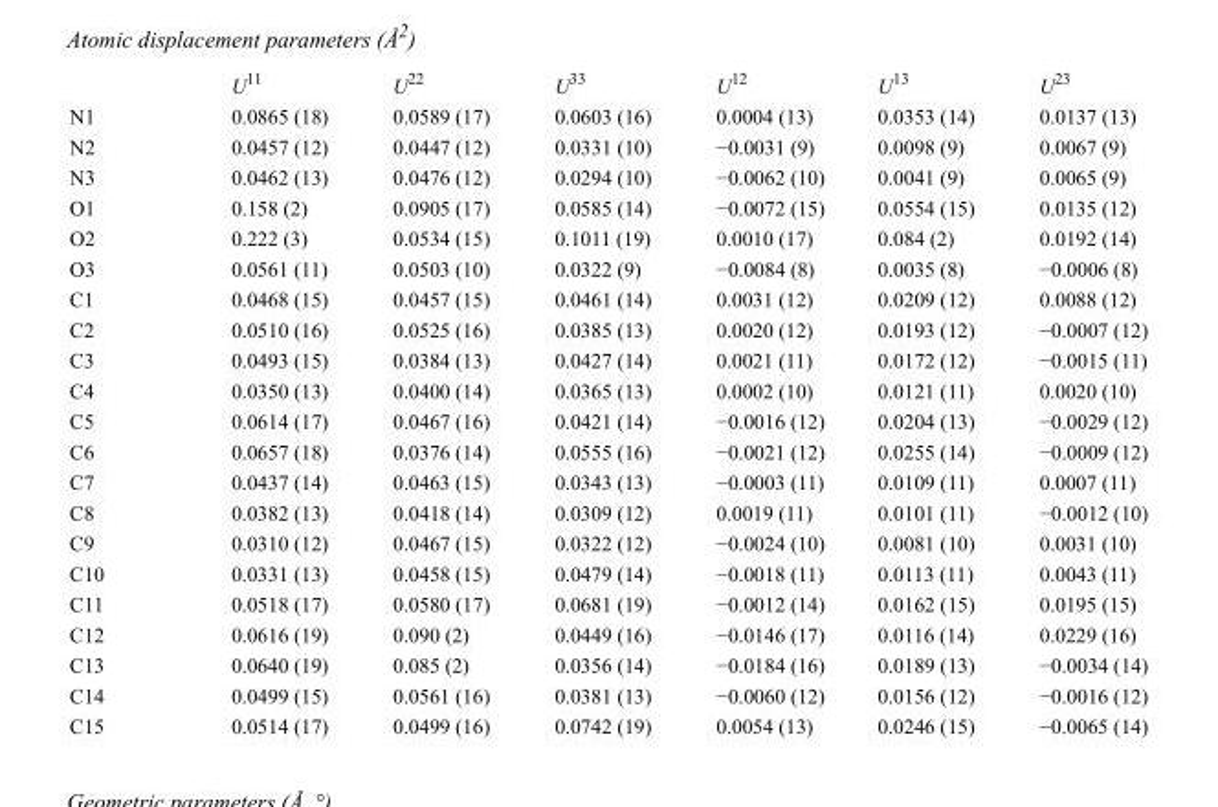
<table><thead><tr><td></td><td>U<sup>11</sup></td><td>U<sup>22</sup></td><td>U<sup>33</sup></td><td>U<sup>12</sup></td><td>U<sup>13</sup></td><td>U<sup>23</sup></td></tr></thead><tbody><tr><td>N1</td><td>0.0865 (18)</td><td>0.0589 (17)</td><td>0.0603 (16)</td><td>0.0004 (13)</td><td>0.0353 (14)</td><td>0.0137 (13)</td></tr><tr><td>N2</td><td>0.0457 (12)</td><td>0.0447 (12)</td><td>0.0331 (10)</td><td>−0.0031 (9)</td><td>0.0098 (9)</td><td>0.0067 (9)</td></tr><tr><td>N3</td><td>0.0462 (13)</td><td>0.0476 (12)</td><td>0.0294 (10)</td><td>−0.0062 (10)</td><td>0.0041 (9)</td><td>0.0065 (9)</td></tr><tr><td>O1</td><td>0.158 (2)</td><td>0.0905 (17)</td><td>0.0585 (14)</td><td>−0.0072 (15)</td><td>0.0554 (15)</td><td>0.0135 (12)</td></tr><tr><td>O2</td><td>0.222 (3)</td><td>0.0534 (15)</td><td>0.1011 (19)</td><td>0.0010 (17)</td><td>0.084 (2)</td><td>0.0192 (14)</td></tr><tr><td>O3</td><td>0.0561 (11)</td><td>0.0503 (10)</td><td>0.0322 (9)</td><td>−0.0084 (8)</td><td>0.0035 (8)</td><td>−0.0006 (8)</td></tr><tr><td>C1</td><td>0.0468 (15)</td><td>0.0457 (15)</td><td>0.0461 (14)</td><td>0.0031 (12)</td><td>0.0209 (12)</td><td>0.0088 (12)</td></tr><tr><td>C2</td><td>0.0510 (16)</td><td>0.0525 (16)</td><td>0.0385 (13)</td><td>0.0020 (12)</td><td>0.0193 (12)</td><td>−0.0007 (12)</td></tr><tr><td>C3</td><td>0.0493 (15)</td><td>0.0384 (13)</td><td>0.0427 (14)</td><td>0.0021 (11)</td><td>0.0172 (12)</td><td>−0.0015 (11)</td></tr><tr><td>C4</td><td>0.0350 (13)</td><td>0.0400 (14)</td><td>0.0365 (13)</td><td>0.0002 (10)</td><td>0.0121 (11)</td><td>0.0020 (10)</td></tr><tr><td>C5</td><td>0.0614 (17)</td><td>0.0467 (16)</td><td>0.0421 (14)</td><td>−0.0016 (12)</td><td>0.0204 (13)</td><td>−0.0029 (12)</td></tr><tr><td>C6</td><td>0.0657 (18)</td><td>0.0376 (14)</td><td>0.0555 (16)</td><td>−0.0021 (12)</td><td>0.0255 (14)</td><td>−0.0009 (12)</td></tr><tr><td>C7</td><td>0.0437 (14)</td><td>0.0463 (15)</td><td>0.0343 (13)</td><td>−0.0003 (11)</td><td>0.0109 (11)</td><td>0.0007 (11)</td></tr><tr><td>C8</td><td>0.0382 (13)</td><td>0.0418 (14)</td><td>0.0309 (12)</td><td>0.0019 (11)</td><td>0.0101 (11)</td><td>−0.0012 (10)</td></tr><tr><td>C9</td><td>0.0310 (12)</td><td>0.0467 (15)</td><td>0.0322 (12)</td><td>−0.0024 (10)</td><td>0.0081 (10)</td><td>0.0031 (10)</td></tr><tr><td>C10</td><td>0.0331 (13)</td><td>0.0458 (15)</td><td>0.0479 (14)</td><td>−0.0018 (11)</td><td>0.0113 (11)</td><td>0.0043 (11)</td></tr><tr><td>C11</td><td>0.0518 (17)</td><td>0.0580 (17)</td><td>0.0681 (19)</td><td>−0.0012 (14)</td><td>0.0162 (15)</td><td>0.0195 (15)</td></tr><tr><td>C12</td><td>0.0616 (19)</td><td>0.090 (2)</td><td>0.0449 (16)</td><td>−0.0146 (17)</td><td>0.0116 (14)</td><td>0.0229 (16)</td></tr><tr><td>C13</td><td>0.0640 (19)</td><td>0.085 (2)</td><td>0.0356 (14)</td><td>−0.0184 (16)</td><td>0.0189 (13)</td><td>−0.0034 (14)</td></tr><tr><td>C14</td><td>0.0499 (15)</td><td>0.0561 (16)</td><td>0.0381 (13)</td><td>−0.0060 (12)</td><td>0.0156 (12)</td><td>−0.0016 (12)</td></tr><tr><td>C15</td><td>0.0514 (17)</td><td>0.0499 (16)</td><td>0.0742 (19)</td><td>0.0054 (13)</td><td>0.0246 (15)</td><td>−0.0065 (14)</td></tr></tbody></table>